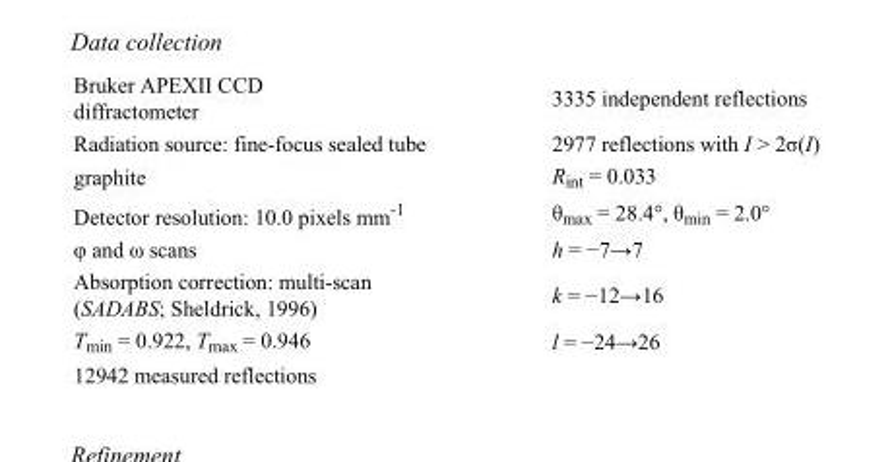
<table><tbody><tr><td>Bruker APEXII CCD diffractometer</td><td>3335 independent reflections</td></tr><tr><td>Radiation source: fine-focus sealed tube</td><td>2977 reflections with I &gt; 2σ(I)</td></tr><tr><td>graphite</td><td>R<sub>int</sub> = 0.033</td></tr><tr><td>Detector resolution: 10.0 pixels mm<sup>-1</sup></td><td>θ<sub>max</sub> = 28.4°, θ<sub>min</sub> = 2.0°</td></tr><tr><td>φ and ω scans</td><td>h = −7→7</td></tr><tr><td>Absorption correction: multi-scan (SADABS; Sheldrick, 1996)</td><td>k = −12→16</td></tr><tr><td>T<sub>min</sub> = 0.922, T<sub>max</sub> = 0.946</td><td>l = −24→26</td></tr><tr><td>12942 measured reflections</td><td></td></tr></tbody></table>